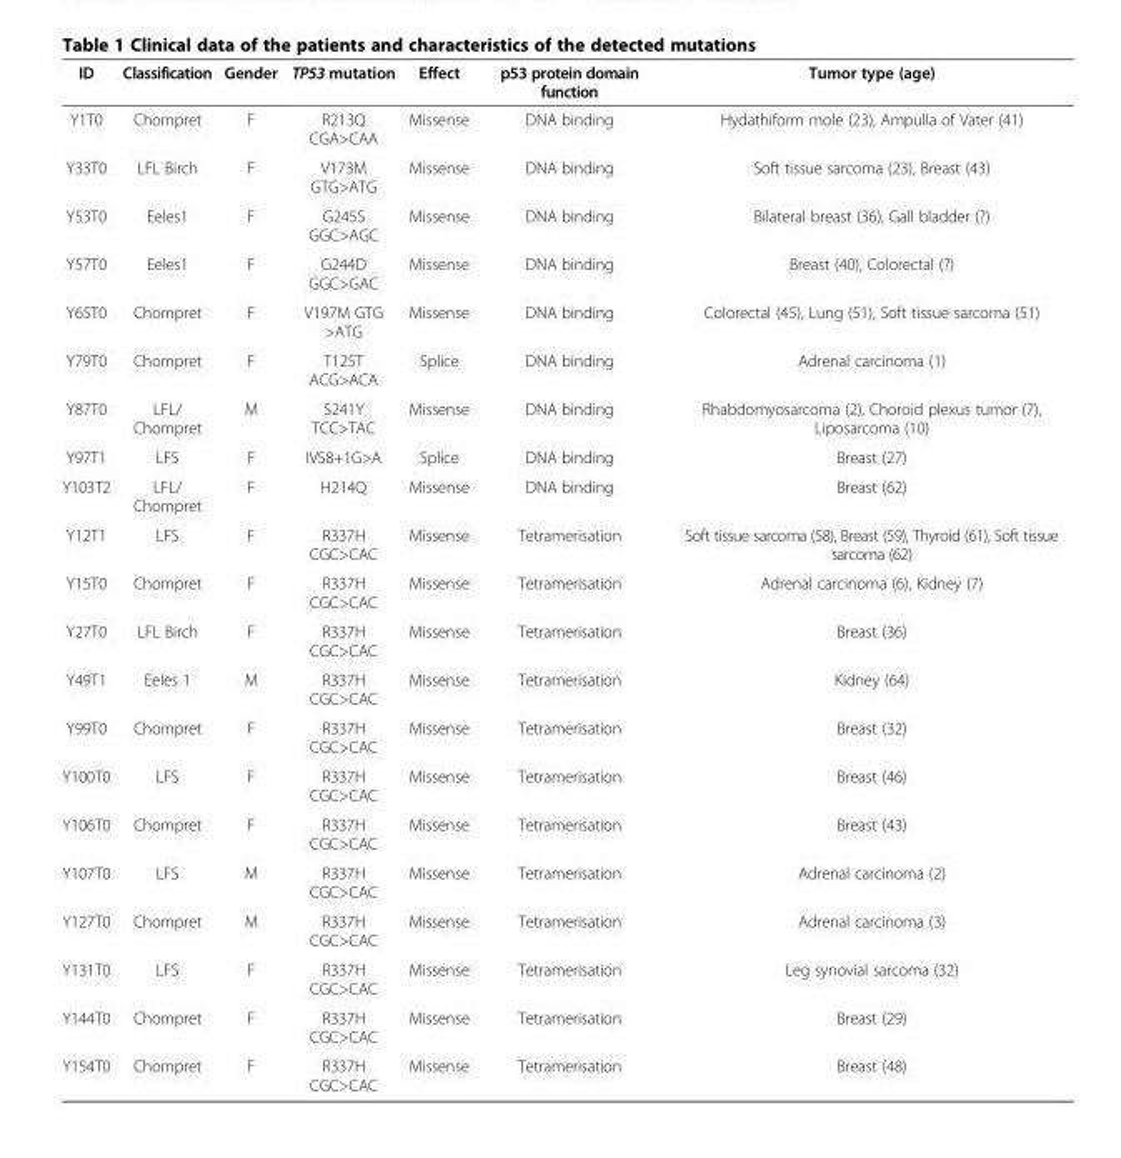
<table><thead><tr><td>ID</td><td>Classification</td><td>Gender</td><td>TP53 mutation</td><td>Effect</td><td>p53 protein domain function</td><td>Tumor type (age)</td></tr></thead><tbody><tr><td>Y1T0</td><td>Chompret</td><td>F</td><td>R213Q CGA&gt;CAA</td><td>Missense</td><td>DNA binding</td><td>Hydathiform mole (23), Ampulla of Vater (41)</td></tr><tr><td>Y33T0</td><td>LFL Birch</td><td>F</td><td>V173M GTG&gt;ATG</td><td>Missense</td><td>DNA binding</td><td>Soft tissue sarcoma (23), Breast (43)</td></tr><tr><td>Y53T0</td><td>Eeles1</td><td>F</td><td>G245S GGC&gt;AGC</td><td>Missense</td><td>DNA binding</td><td>Bilateral breast (36), Gall bladder (?)</td></tr><tr><td>Y57T0</td><td>Eeles1</td><td>F</td><td>G244D GGC&gt;GAC</td><td>Missense</td><td>DNA binding</td><td>Breast (40), Colorectal (?)</td></tr><tr><td>Y65T0</td><td>Chompret</td><td>F</td><td>V197M GTG &gt;ATG</td><td>Missense</td><td>DNA binding</td><td>Colorectal (45), Lung (51), Soft tissue sarcoma (51)</td></tr><tr><td>Y79T0</td><td>Chompret</td><td>F</td><td>T125T ACG&gt;ACA</td><td>Splice</td><td>DNA binding</td><td>Adrenal carcinoma (1)</td></tr><tr><td>Y87T0</td><td>LFL/ Chompret</td><td>M</td><td>S241Y TCC&gt;TAC</td><td>Missense</td><td>DNA binding</td><td>Rhabdomyosarcoma (2), Choroid plexus tumor (7), Liposarcoma (10)</td></tr><tr><td>Y97T1</td><td>LFS</td><td>F</td><td>IVS8+1G&gt;A</td><td>Splice</td><td>DNA binding</td><td>Breast (27)</td></tr><tr><td>Y103T2</td><td>LFL/ Chompret</td><td>F</td><td>H214Q</td><td>Missense</td><td>DNA binding</td><td>Breast (62)</td></tr><tr><td>Y12T1</td><td>LFS</td><td>F</td><td>R337H CGC&gt;CAC</td><td>Missense</td><td>Tetramerisation</td><td>Soft tissue sarcoma (58), Breast (59), Thyroid (61), Soft tissue sarcoma (62)</td></tr><tr><td>Y15T0</td><td>Chompret</td><td>F</td><td>R337H CGC&gt;CAC</td><td>Missense</td><td>Tetramerisation</td><td>Adrenal carcinoma (6), Kidney (7)</td></tr><tr><td>Y27T0</td><td>LFL Birch</td><td>F</td><td>R337H CGC&gt;CAC</td><td>Missense</td><td>Tetramerisation</td><td>Breast (36)</td></tr><tr><td>Y49T1</td><td>Eeles 1</td><td>M</td><td>R337H CGC&gt;CAC</td><td>Missense</td><td>Tetramerisation</td><td>Kidney (64)</td></tr><tr><td>Y99T0</td><td>Chompret</td><td>F</td><td>R337H CGC&gt;CAC</td><td>Missense</td><td>Tetramerisation</td><td>Breast (32)</td></tr><tr><td>Y100T0</td><td>LFS</td><td>F</td><td>R337H CGC&gt;CAC</td><td>Missense</td><td>Tetramerisation</td><td>Breast (46)</td></tr><tr><td>Y106T0</td><td>Chompret</td><td>F</td><td>R337H CGC&gt;CAC</td><td>Missense</td><td>Tetramerisation</td><td>Breast (43)</td></tr><tr><td>Y107T0</td><td>LFS</td><td>M</td><td>R337H CGC&gt;CAC</td><td>Missense</td><td>Tetramerisation</td><td>Adrenal carcinoma (2)</td></tr><tr><td>Y127T0</td><td>Chompret</td><td>M</td><td>R337H CGC&gt;CAC</td><td>Missense</td><td>Tetramerisation</td><td>Adrenal carcinoma (3)</td></tr><tr><td>Y131T0</td><td>LFS</td><td>F</td><td>R337H CGC&gt;CAC</td><td>Missense</td><td>Tetramerisation</td><td>Leg synovial sarcoma (32)</td></tr><tr><td>Y144T0</td><td>Chompret</td><td>F</td><td>R337H CGC&gt;CAC</td><td>Missense</td><td>Tetramerisation</td><td>Breast (29)</td></tr><tr><td>Y154T0</td><td>Chompret</td><td>F</td><td>R337H CGC&gt;CAC</td><td>Missense</td><td>Tetramerisation</td><td>Breast (48)</td></tr></tbody></table>